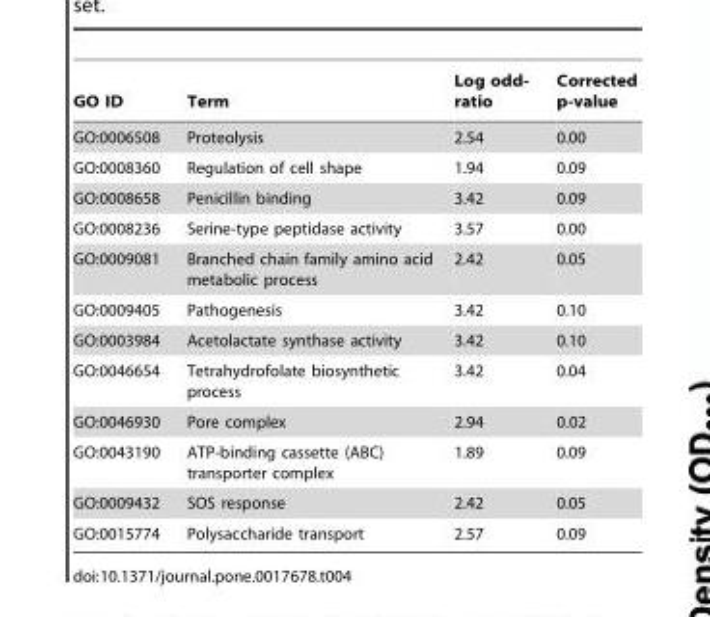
<table><thead><tr><td>GO ID</td><td>Term</td><td>Log odd- ratio</td><td>Corrected p-value</td></tr></thead><tbody><tr><td>GO:0006508</td><td>Proteolysis</td><td>2.54</td><td>0.00</td></tr><tr><td>GO:0008360</td><td>Regulation of cell shape</td><td>1.94</td><td>0.09</td></tr><tr><td>GO:0008658</td><td>Penicillin binding</td><td>3.42</td><td>0.09</td></tr><tr><td>GO:0008236</td><td>Serine-type peptidase activity</td><td>3.57</td><td>0.00</td></tr><tr><td>GO:0009081</td><td>Branched chain family amino acid metabolic process</td><td>2.42</td><td>0.05</td></tr><tr><td>GO:0009405</td><td>Pathogenesis</td><td>3.42</td><td>0.10</td></tr><tr><td>GO:0003984</td><td>Acetolactate synthase activity</td><td>3.42</td><td>0.10</td></tr><tr><td>GO:0046654</td><td>Tetrahydrofolate biosynthetic process</td><td>3.42</td><td>0.04</td></tr><tr><td>GO:0046930</td><td>Pore complex</td><td>2.94</td><td>0.02</td></tr><tr><td>GO:0043190</td><td>ATP-binding cassette (ABC) transporter complex</td><td>1.89</td><td>0.09</td></tr><tr><td>GO:0009432</td><td>SOS response</td><td>2.42</td><td>0.05</td></tr><tr><td>GO:0015774</td><td>Polysaccharide transport</td><td>2.57</td><td>0.09</td></tr></tbody></table>